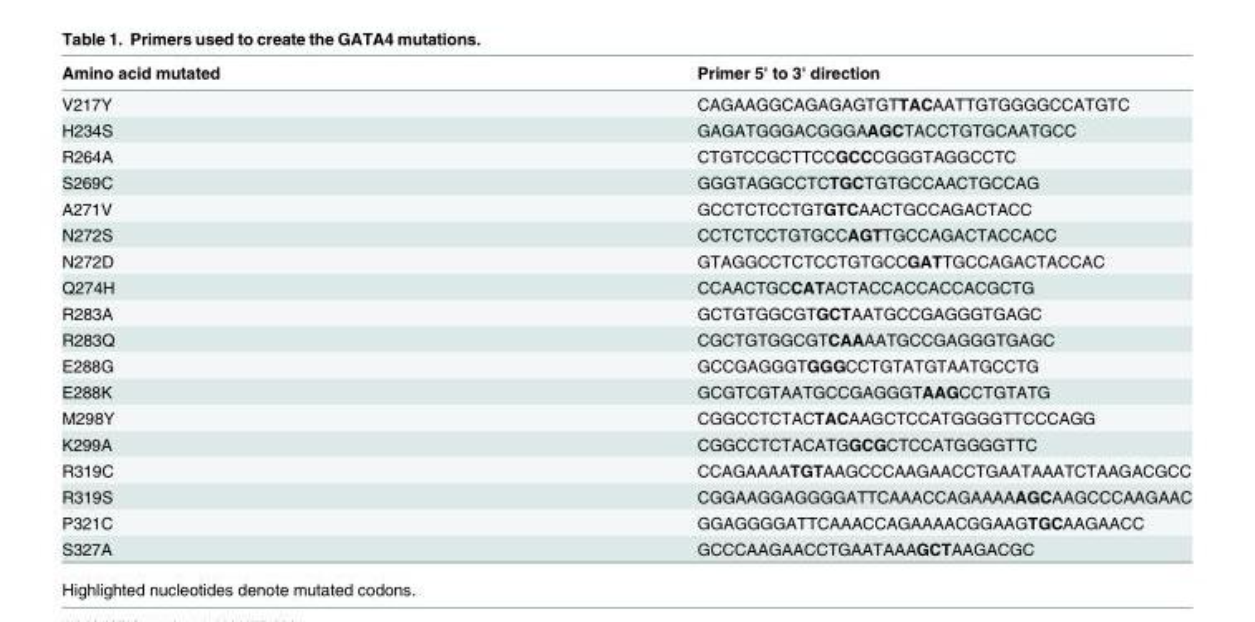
<table><thead><tr><td>Amino acid mutated</td><td>Primer 5&#x27; to 3&#x27; direction</td></tr></thead><tbody><tr><td>V217Y</td><td>CAGAAGGCAGAGAGTGTTACAATTGTGGGGCCATGTC</td></tr><tr><td>H234S</td><td>GAGATGGGACGGGAAGCTACCTGTGCAATGCC</td></tr><tr><td>R264A</td><td>CTGTCCGCTTCCGCCCGGGTAGGCCTC</td></tr><tr><td>S269C</td><td>GGGTAGGCCTCTGCTGTGCCAACTGCCAG</td></tr><tr><td>A271V</td><td>GCCTCTCCTGTGTCAACTGCCAGACTACC</td></tr><tr><td>N272S</td><td>CCTCTCCTGTGCCAGTTGCCAGACTACCACC</td></tr><tr><td>N272D</td><td>GTAGGCCTCTCCTGTGCCGATTGCCAGACTACCAC</td></tr><tr><td>Q274H</td><td>CCAACTGCCATACTACCACCACCACGCTG</td></tr><tr><td>R283A</td><td>GCTGTGGCGTGCTAATGCCGAGGGTGAGC</td></tr><tr><td>R283Q</td><td>CGCTGTGGCGTCAAAATGCCGAGGGTGAGC</td></tr><tr><td>E288G</td><td>GCCGAGGGTGGGCCTGTATGTAATGCCTG</td></tr><tr><td>E288K</td><td>GCGTCGTAATGCCGAGGGTAAGCCTGTATG</td></tr><tr><td>M298Y</td><td>CGGCCTCTACTACAAGCTCCATGGGGTTCCCAGG</td></tr><tr><td>K299A</td><td>CGGCCTCTACATGGCGCTCCATGGGGTTC</td></tr><tr><td>R319C</td><td>CCAGAAAATGTAAGCCCAAGAACCTGAATAAATCTAAGACGCC</td></tr><tr><td>R319S</td><td>CGGAAGGAGGGGATTCAAACCAGAAAAAGCAAGCCCAAGAAC</td></tr><tr><td>P321C</td><td>GGAGGGGATTCAAACCAGAAAACGGAAGTGCAAGAACC</td></tr><tr><td>S327A</td><td>GCCCAAGAACCTGAATAAAGCTAAGACGC</td></tr></tbody></table>